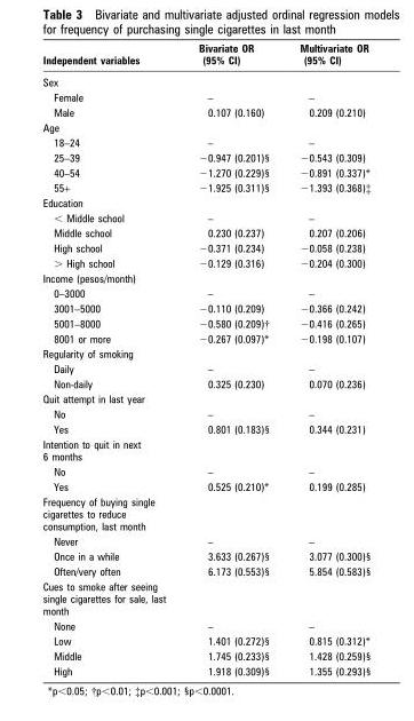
<table><thead><tr><td>Independent variables</td><td>Bivariate OR (95% CI)</td><td>Multivariate OR (95% CI)</td></tr></thead><tbody><tr><td colspan="3">Sex</td></tr><tr><td>Female</td><td>–</td><td>–</td></tr><tr><td>Male</td><td>0.107 (0.160)</td><td>0.209 (0.210)</td></tr><tr><td colspan="3">Age</td></tr><tr><td>18–24</td><td>–</td><td>–</td></tr><tr><td>25–39</td><td>−0.947 (0.201)§</td><td>−0.543 (0.309)</td></tr><tr><td>40–54</td><td>−1.270 (0.229)§</td><td>−0.891 (0.337)*</td></tr><tr><td>55+</td><td>−1.925 (0.311)§</td><td>−1.393 (0.368)‡</td></tr><tr><td colspan="3">Education</td></tr><tr><td>&lt; Middle school</td><td>–</td><td>–</td></tr><tr><td>Middle school</td><td>0.230 (0.237)</td><td>0.207 (0.206)</td></tr><tr><td>High school</td><td>−0.371 (0.234)</td><td>−0.058 (0.238)</td></tr><tr><td>&gt; High school</td><td>−0.129 (0.316)</td><td>−0.204 (0.300)</td></tr><tr><td colspan="3">Income (pesos/month)</td></tr><tr><td>0–3000</td><td>–</td><td>–</td></tr><tr><td>3001–5000</td><td>−0.110 (0.209)</td><td>−0.366 (0.242)</td></tr><tr><td>5001–8000</td><td>−0.580 (0.209)†</td><td>−0.416 (0.265)</td></tr><tr><td>8001 or more</td><td>−0.267 (0.097)*</td><td>−0.198 (0.107)</td></tr><tr><td colspan="3">Regularity of smoking</td></tr><tr><td>Daily</td><td>–</td><td>–</td></tr><tr><td>Non-daily</td><td>0.325 (0.230)</td><td>0.070 (0.236)</td></tr><tr><td colspan="3">Quit attempt in last year</td></tr><tr><td>No</td><td>–</td><td>–</td></tr><tr><td>Yes</td><td>0.801 (0.183)§</td><td>0.344 (0.231)</td></tr><tr><td colspan="3">Intention to quit in next 6 months</td></tr><tr><td>No</td><td>–</td><td>–</td></tr><tr><td>Yes</td><td>0.525 (0.210)*</td><td>0.199 (0.285)</td></tr><tr><td colspan="3">Frequency of buying single cigarettes to reduce consumption, last month</td></tr><tr><td>Never</td><td>–</td><td>–</td></tr><tr><td>Once in a while</td><td>3.633 (0.267)§</td><td>3.077 (0.300)§</td></tr><tr><td>Often/very often</td><td>6.173 (0.553)§</td><td>5.854 (0.583)§</td></tr><tr><td colspan="3">Cues to smoke after seeing single cigarettes for sale, last month</td></tr><tr><td>None</td><td>–</td><td>–</td></tr><tr><td>Low</td><td>1.401 (0.272)§</td><td>0.815 (0.312)*</td></tr><tr><td>Middle</td><td>1.745 (0.233)§</td><td>1.428 (0.259)§</td></tr><tr><td>High</td><td>1.918 (0.309)§</td><td>1.355 (0.293)§</td></tr></tbody></table>